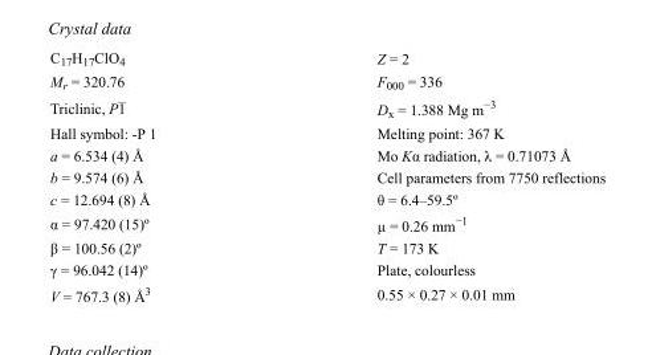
<table><tbody><tr><td>C<sub>17</sub>H<sub>17</sub>ClO<sub>4</sub></td><td>Z = 2</td></tr><tr><td>M<sub>r</sub> = 320.76</td><td>F000 = 336</td></tr><tr><td>Triclinic, P1</td><td>D<sub>x</sub> = 1.388 Mg m<sup>−3</sup></td></tr><tr><td>Hall symbol: -P 1</td><td>Melting point: 367 K</td></tr><tr><td>a = 6.534 (4) Å</td><td>Mo Kα radiation, λ = 0.71073 Å</td></tr><tr><td>b = 9.574 (6) Å</td><td>Cell parameters from 7750 reflections</td></tr><tr><td>c = 12.694 (8) Å</td><td>θ = 6.4–59.5º</td></tr><tr><td>α = 97.420 (15)º</td><td>µ = 0.26 mm<sup>−1</sup></td></tr><tr><td>β = 100.56 (2)º</td><td>T = 173 K</td></tr><tr><td>γ = 96.042 (14)º</td><td>Plate, colourless</td></tr><tr><td>V = 767.3 (8) Å<sup>3</sup></td><td>0.55 × 0.27 × 0.01 mm</td></tr></tbody></table>